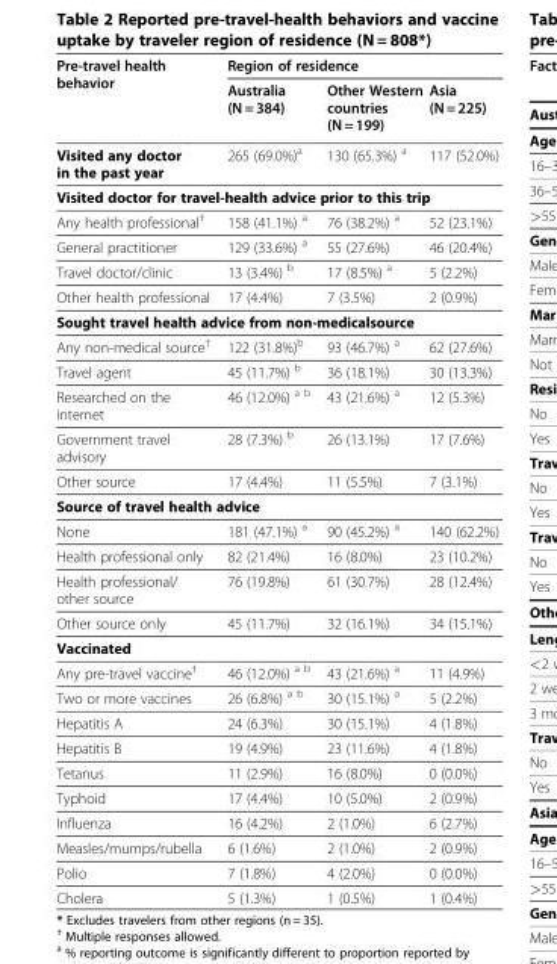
<table><thead><tr><td rowspan="2">Pre-travel health behavior</td><td colspan="3">Region of residence</td></tr><tr><td>Australia (N = 384)</td><td>Other Western countries (N = 199)</td><td>Asia (N = 225)</td></tr></thead><tbody><tr><td>Visited any doctor in the past year</td><td>265 (69.0%)<sup>a</sup></td><td>130 (65.3%) <sup>a</sup></td><td>117 (52.0%)</td></tr><tr><td colspan="4">Visited doctor for travel-health advice prior to this trip</td></tr><tr><td>Any health professional<sup>†</sup></td><td>158 (41.1%) <sup>a</sup></td><td>76 (38.2%) <sup>a</sup></td><td>52 (23.1%)</td></tr><tr><td>General practitioner</td><td>129 (33.6%) <sup>a</sup></td><td>55 (27.6%)</td><td>46 (20.4%)</td></tr><tr><td>Travel doctor/clinic</td><td>13 (3.4%) <sup>b</sup></td><td>17 (8.5%) <sup>a</sup></td><td>5 (2.2%)</td></tr><tr><td>Other health professional</td><td>17 (4.4%)</td><td>7 (3.5%)</td><td>2 (0.9%)</td></tr><tr><td colspan="4">Sought travel health advice from non-medicalsource</td></tr><tr><td>Any non-medical source<sup>†</sup></td><td>122 (31.8%)<sup>b</sup></td><td>93 (46.7%) <sup>a</sup></td><td>62 (27.6%)</td></tr><tr><td>Travel agent</td><td>45 (11.7%) <sup>b</sup></td><td>36 (18.1%)</td><td>30 (13.3%)</td></tr><tr><td>Researched on the internet</td><td>46 (12.0%) <sup>a b</sup></td><td>43 (21.6%) <sup>a</sup></td><td>12 (5.3%)</td></tr><tr><td>Government travel advisory</td><td>28 (7.3%) <sup>b</sup></td><td>26 (13.1%)</td><td>17 (7.6%)</td></tr><tr><td>Other source</td><td>17 (4.4%)</td><td>11 (5.5%)</td><td>7 (3.1%)</td></tr><tr><td colspan="4">Source of travel health advice</td></tr><tr><td>None</td><td>181 (47.1%) <sup>a</sup></td><td>90 (45.2%) <sup>a</sup></td><td>140 (62.2%)</td></tr><tr><td>Health professional only</td><td>82 (21.4%)</td><td>16 (8.0%)</td><td>23 (10.2%)</td></tr><tr><td>Health professional/ other source</td><td>76 (19.8%)</td><td>61 (30.7%)</td><td>28 (12.4%)</td></tr><tr><td>Other source only</td><td>45 (11.7%)</td><td>32 (16.1%)</td><td>34 (15.1%)</td></tr><tr><td colspan="4">Vaccinated</td></tr><tr><td>Any pre-travel vaccine<sup>†</sup></td><td>46 (12.0%) <sup>a b</sup></td><td>43 (21.6%) <sup>a</sup></td><td>11 (4.9%)</td></tr><tr><td>Two or more vaccines</td><td>26 (6.8%) <sup>a b</sup></td><td>30 (15.1%) <sup>a</sup></td><td>5 (2.2%)</td></tr><tr><td>Hepatitis A</td><td>24 (6.3%)</td><td>30 (15.1%)</td><td>4 (1.8%)</td></tr><tr><td>Hepatitis B</td><td>19 (4.9%)</td><td>23 (11.6%)</td><td>4 (1.8%)</td></tr><tr><td>Tetanus</td><td>11 (2.9%)</td><td>16 (8.0%)</td><td>0 (0.0%)</td></tr><tr><td>Typhoid</td><td>17 (4.4%)</td><td>10 (5.0%)</td><td>2 (0.9%)</td></tr><tr><td>Influenza</td><td>16 (4.2%)</td><td>2 (1.0%)</td><td>6 (2.7%)</td></tr><tr><td>Measles/mumps/rubella</td><td>6 (1.6%)</td><td>2 (1.0%)</td><td>2 (0.9%)</td></tr><tr><td>Polio</td><td>7 (1.8%)</td><td>4 (2.0%)</td><td>0 (0.0%)</td></tr><tr><td>Cholera</td><td>5 (1.3%)</td><td>1 (0.5%)</td><td>1 (0.4%)</td></tr></tbody></table>